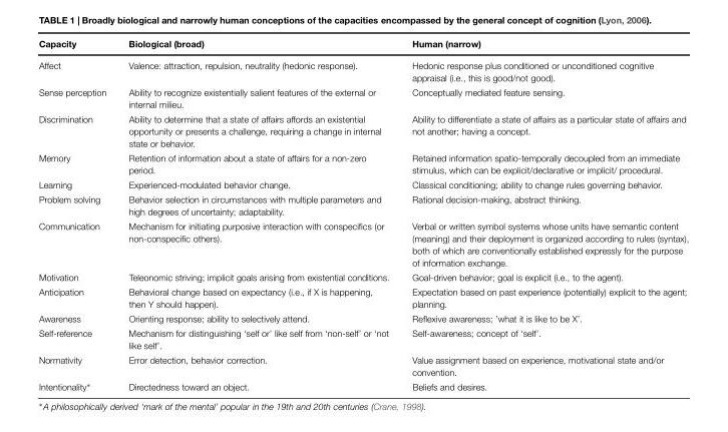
<table><thead><tr><td>Capacity</td><td>Biological (broad)</td><td>Human (narrow)</td></tr></thead><tbody><tr><td>Affect</td><td>Valence: attraction, repulsion, neutrality (hedonic response).</td><td>Hedonic response plus conditioned or unconditioned cognitive appraisal (i.e., this is good/not good).</td></tr><tr><td>Sense perception</td><td>Ability to recognize existentially salient features of the external or internal milieu.</td><td>Conceptually mediated feature sensing.</td></tr><tr><td>Discrimination</td><td>Ability to determine that a state of affairs affords an existential opportunity or presents a challenge, requiring a change in internal state or behavior.</td><td>Ability to differentiate a state of affairs as a particular state of affairs and not another; having a concept.</td></tr><tr><td>Memory</td><td>Retention of information about a state of affairs for a non-zero period.</td><td>Retained information spatio-temporally decoupled from an immediate stimulus, which can be explicit/declarative or implicit/ procedural.</td></tr><tr><td>Learning</td><td>Experienced-modulated behavior change.</td><td>Classical conditioning; ability to change rules governing behavior.</td></tr><tr><td>Problem solving</td><td>Behavior selection in circumstances with multiple parameters and high degrees of uncertainty; adaptability.</td><td>Rational decision-making, abstract thinking.</td></tr><tr><td>Communication</td><td>Mechanism for initiating purposive interaction with conspecifics (or non-conspecific others).</td><td>Verbal or written symbol systems whose units have semantic content (meaning) and their deployment is organized according to rules (syntax), both of which are conventionally established expressly for the purpose of information exchange.</td></tr><tr><td>Motivation</td><td>Teleonomic striving; implicit goals arising from existential conditions.</td><td>Goal-driven behavior; goal is explicit (i.e., to the agent).</td></tr><tr><td>Anticipation</td><td>Behavioral change based on expectancy (i.e., if X is happening, then Y should happen).</td><td>Expectation based on past experience (potentially) explicit to the agent; planning.</td></tr><tr><td>Awareness</td><td>Orienting response; ability to selectively attend.</td><td>Reflexive awareness; ’what it is like to be X’.</td></tr><tr><td>Self-reference</td><td>Mechanism for distinguishing ‘self or’ like self from ‘non-self’ or ‘not like self’.</td><td>Self-awareness; concept of ‘self’.</td></tr><tr><td>Normativity</td><td>Error detection, behavior correction.</td><td>Value assignment based on experience, motivational state and/or convention.</td></tr><tr><td>Intentionality∗</td><td>Directedness toward an object.</td><td>Beliefs and desires.</td></tr></tbody></table>